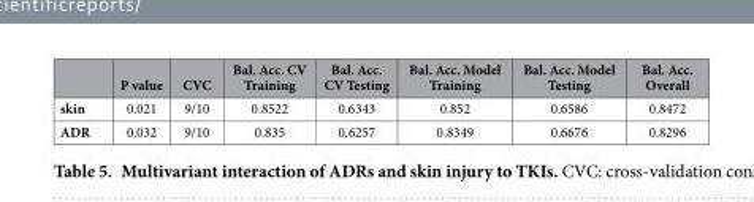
<table><thead><tr><td></td><td>P value</td><td>CVC</td><td>Bal. Acc. CV Training</td><td>Bal. Acc. CV Testing</td><td>Bal. Acc. Model Training</td><td>Bal. Acc. Model Testing</td><td>Bal. Acc. Overall</td></tr></thead><tbody><tr><td>skin</td><td>0.021</td><td>9/10</td><td>0.8522</td><td>0.6343</td><td>0.852</td><td>0.6586</td><td>0.8472</td></tr><tr><td>ADR</td><td>0.032</td><td>9/10</td><td>0.835</td><td>0.6257</td><td>0.8349</td><td>0.6676</td><td>0.8296</td></tr></tbody></table>